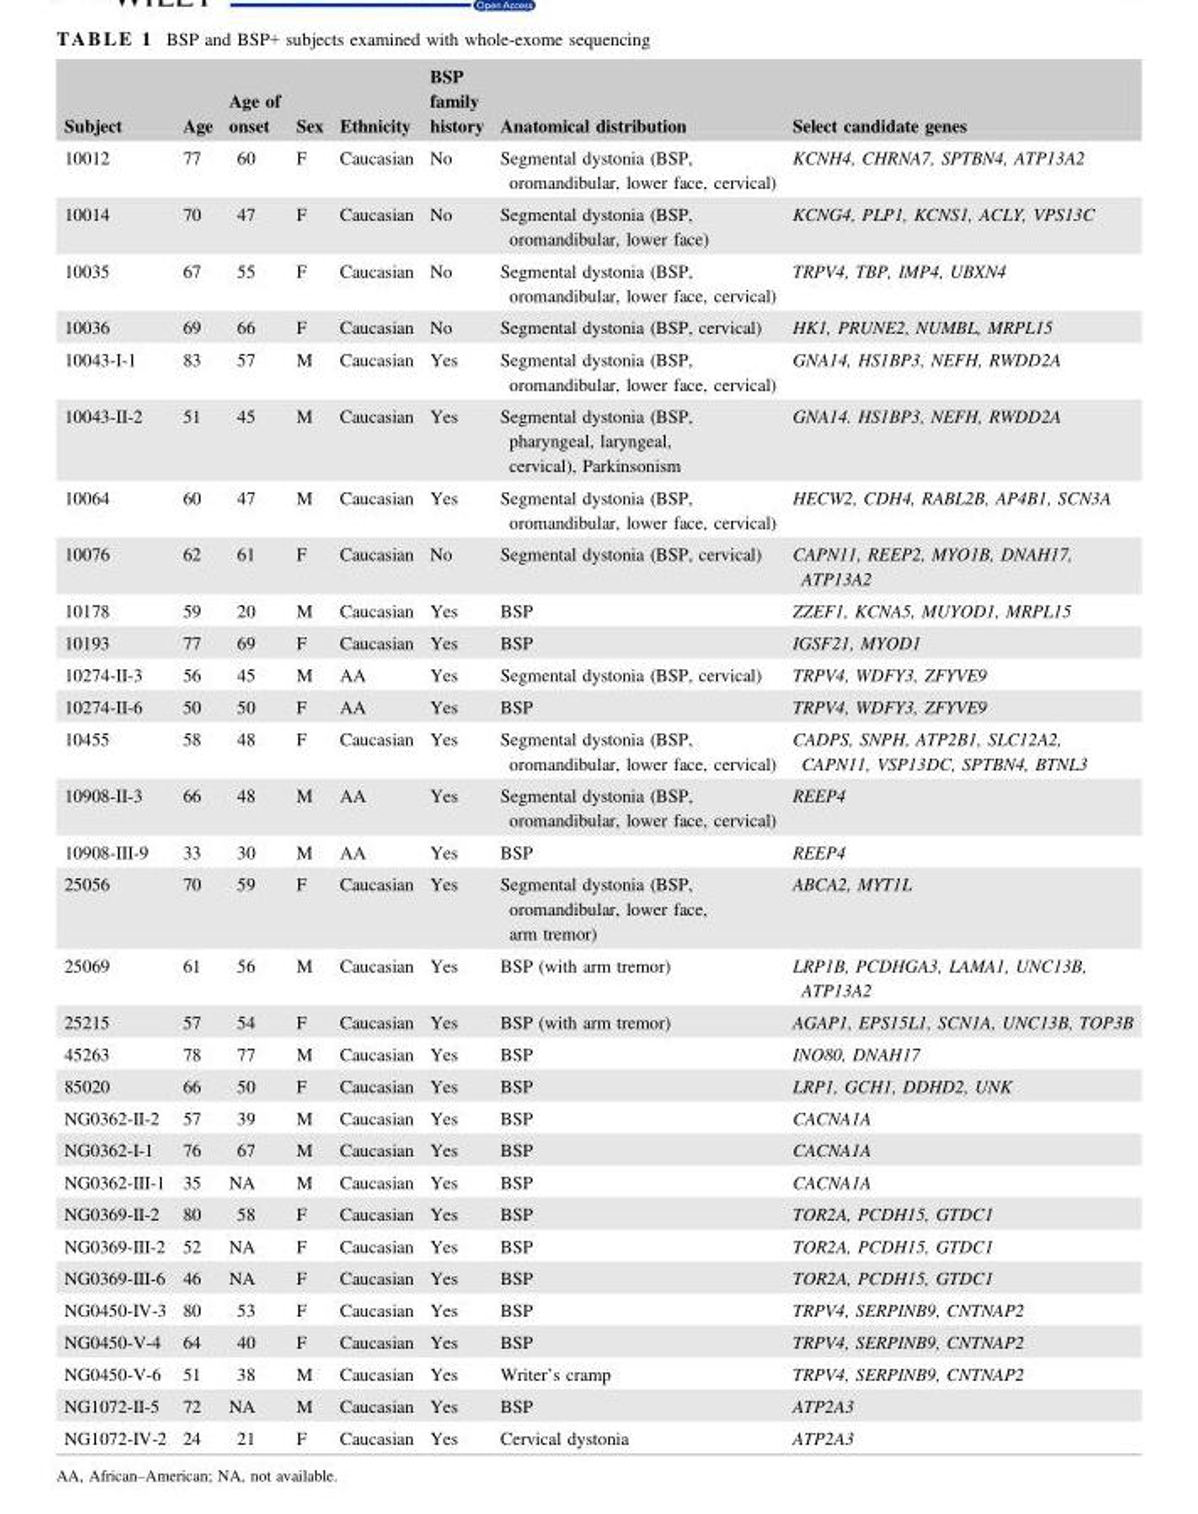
<table><thead><tr><td>Subject</td><td>Age</td><td>Age of onset</td><td>Sex</td><td>Ethnicity</td><td>BSP family history</td><td>Anatomical distribution</td><td>Select candidate genes</td></tr></thead><tbody><tr><td>10012</td><td>77</td><td>60</td><td>F</td><td>Caucasian</td><td>No</td><td>Segmental dystonia (BSP, oromandibular, lower face, cervical)</td><td>KCNH4, CHRNA7, SPTBN4, ATP13A2</td></tr><tr><td>10014</td><td>70</td><td>47</td><td>F</td><td>Caucasian</td><td>No</td><td>Segmental dystonia (BSP, oromandibular, lower face)</td><td>KCNG4, PLP1, KCNS1, ACLY, VPS13C</td></tr><tr><td>10035</td><td>67</td><td>55</td><td>F</td><td>Caucasian</td><td>No</td><td>Segmental dystonia (BSP, oromandibular, lower face, cervical)</td><td>TRPV4, TBP, IMP4, UBXN4</td></tr><tr><td>10036</td><td>69</td><td>66</td><td>F</td><td>Caucasian</td><td>No</td><td>Segmental dystonia (BSP, cervical)</td><td>HK1, PRUNE2, NUMBL, MRPL15</td></tr><tr><td>10043-I-1</td><td>83</td><td>57</td><td>M</td><td>Caucasian</td><td>Yes</td><td>Segmental dystonia (BSP, oromandibular, lower face, cervical)</td><td>GNA14, HS1BP3, NEFH, RWDD2A</td></tr><tr><td>10043-II-2</td><td>51</td><td>45</td><td>M</td><td>Caucasian</td><td>Yes</td><td>Segmental dystonia (BSP, pharyngeal, laryngeal, cervical), Parkinsonism</td><td>GNA14. HS1BP3, NEFH, RWDD2A</td></tr><tr><td>10064</td><td>60</td><td>47</td><td>M</td><td>Caucasian</td><td>Yes</td><td>Segmental dystonia (BSP, oromandibular, lower face, cervical)</td><td>HECW2, CDH4, RABL2B, AP4B1, SCN3A</td></tr><tr><td>10076</td><td>62</td><td>61</td><td>F</td><td>Caucasian</td><td>No</td><td>Segmental dystonia (BSP, cervical)</td><td>CAPN11, REEP2, MYO1B, DNAH17, ATP13A2</td></tr><tr><td>10178</td><td>59</td><td>20</td><td>M</td><td>Caucasian</td><td>Yes</td><td>BSP</td><td>ZZEF1, KCNA5, MUYOD1, MRPL15</td></tr><tr><td>10193</td><td>77</td><td>69</td><td>F</td><td>Caucasian</td><td>Yes</td><td>BSP</td><td>IGSF21, MYOD1</td></tr><tr><td>10274-II-3</td><td>56</td><td>45</td><td>M</td><td>AA</td><td>Yes</td><td>Segmental dystonia (BSP, cervical)</td><td>TRPV4, WDFY3, ZFYVE9</td></tr><tr><td>10274-II-6</td><td>50</td><td>50</td><td>F</td><td>AA</td><td>Yes</td><td>BSP</td><td>TRPV4, WDFY3, ZFYVE9</td></tr><tr><td>10455</td><td>58</td><td>48</td><td>F</td><td>Caucasian</td><td>Yes</td><td>Segmental dystonia (BSP, oromandibular, lower face, cervical)</td><td>CADPS, SNPH, ATP2B1, SLC12A2, CAPN11, VSP13DC, SPTBN4, BTNL3</td></tr><tr><td>10908-II-3</td><td>66</td><td>48</td><td>M</td><td>AA</td><td>Yes</td><td>Segmental dystonia (BSP, oromandibular, lower face, cervical)</td><td>REEP4</td></tr><tr><td>10908-III-9</td><td>33</td><td>30</td><td>M</td><td>AA</td><td>Yes</td><td>BSP</td><td>REEP4</td></tr><tr><td>25056</td><td>70</td><td>59</td><td>F</td><td>Caucasian</td><td>Yes</td><td>Segmental dystonia (BSP, oromandibular, lower face, arm tremor)</td><td>ABCA2, MYT1L</td></tr><tr><td>25069</td><td>61</td><td>56</td><td>M</td><td>Caucasian</td><td>Yes</td><td>BSP (with arm tremor)</td><td>LRP1B, PCDHGA3, LAMA1, UNC13B, ATP13A2</td></tr><tr><td>25215</td><td>57</td><td>54</td><td>F</td><td>Caucasian</td><td>Yes</td><td>BSP (with arm tremor)</td><td>AGAP1, EPS15L1, SCN1A, UNC13B, TOP3B</td></tr><tr><td>45263</td><td>78</td><td>77</td><td>M</td><td>Caucasian</td><td>Yes</td><td>BSP</td><td>INO80, DNAH17</td></tr><tr><td>85020</td><td>66</td><td>50</td><td>F</td><td>Caucasian</td><td>Yes</td><td>BSP</td><td>LRP1, GCH1, DDHD2, UNK</td></tr><tr><td>NG0362-II-2</td><td>57</td><td>39</td><td>M</td><td>Caucasian</td><td>Yes</td><td>BSP</td><td>CACNA1A</td></tr><tr><td>NG0362-I-1</td><td>76</td><td>67</td><td>M</td><td>Caucasian</td><td>Yes</td><td>BSP</td><td>CACNA1A</td></tr><tr><td>NG0362-III-1</td><td>35</td><td>NA</td><td>M</td><td>Caucasian</td><td>Yes</td><td>BSP</td><td>CACNA1A</td></tr><tr><td>NG0369-II-2</td><td>80</td><td>58</td><td>F</td><td>Caucasian</td><td>Yes</td><td>BSP</td><td>TOR2A, PCDH15, GTDC1</td></tr><tr><td>NG0369-III-2</td><td>52</td><td>NA</td><td>F</td><td>Caucasian</td><td>Yes</td><td>BSP</td><td>TOR2A, PCDH15, GTDC1</td></tr><tr><td>NG0369-III-6</td><td>46</td><td>NA</td><td>F</td><td>Caucasian</td><td>Yes</td><td>BSP</td><td>TOR2A, PCDH15, GTDC1</td></tr><tr><td>NG0450-IV-3</td><td>80</td><td>53</td><td>F</td><td>Caucasian</td><td>Yes</td><td>BSP</td><td>TRPV4, SERPINB9, CNTNAP2</td></tr><tr><td>NG0450-V-4</td><td>64</td><td>40</td><td>F</td><td>Caucasian</td><td>Yes</td><td>BSP</td><td>TRPV4, SERPINB9, CNTNAP2</td></tr><tr><td>NG0450-V-6</td><td>51</td><td>38</td><td>M</td><td>Caucasian</td><td>Yes</td><td>Writer’s cramp</td><td>TRPV4, SERPINB9, CNTNAP2</td></tr><tr><td>NG1072-II-5</td><td>72</td><td>NA</td><td>M</td><td>Caucasian</td><td>Yes</td><td>BSP</td><td>ATP2A3</td></tr><tr><td>NG1072-IV-2</td><td>24</td><td>21</td><td>F</td><td>Caucasian</td><td>Yes</td><td>Cervical dystonia</td><td>ATP2A3</td></tr></tbody></table>